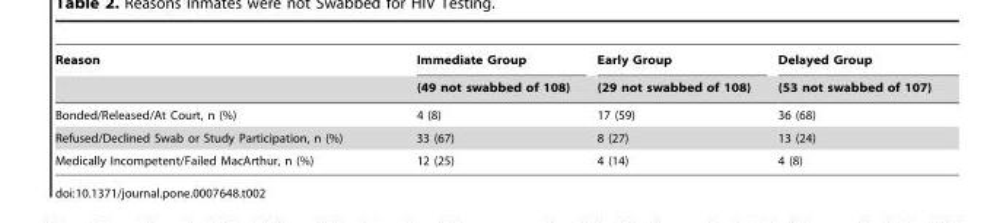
<table><thead><tr><td rowspan="2">Reason</td><td rowspan="2">Immediate Group (49 not swabbed of 108)</td><td rowspan="2">Early Group (29 not swabbed of 108)</td><td rowspan="2">Delayed Group (53 not swabbed of 107)</td></tr><tr></tr></thead><tbody><tr><td>Bonded/Released/At Court, n (%)</td><td>4 (8)</td><td>17 (59)</td><td>36 (68)</td></tr><tr><td>Refused/Declined Swab or Study Participation, n (%)</td><td>33 (67)</td><td>8 (27)</td><td>13 (24)</td></tr><tr><td>Medically Incompetent/Failed MacArthur, n (%)</td><td>12 (25)</td><td>4 (14)</td><td>4 (8)</td></tr></tbody></table>